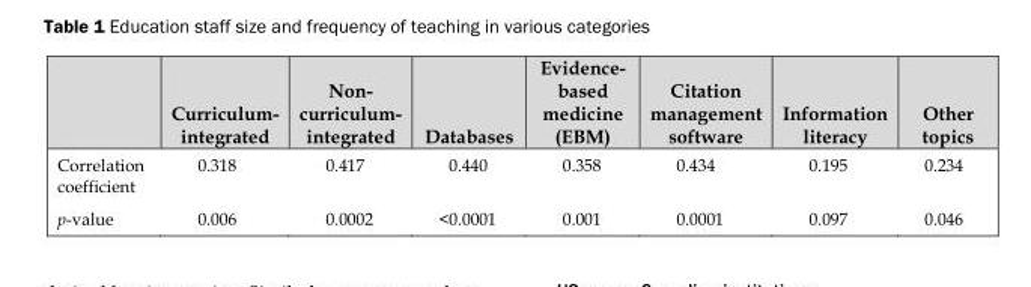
<table><thead><tr><td></td><td>Curriculum- integrated</td><td>Non- curriculum- integrated</td><td>Databases</td><td>Evidence- based medicine (EBM)</td><td>Citation management software</td><td>Information literacy</td><td>Other topics</td></tr></thead><tbody><tr><td>Correlation coefficient</td><td>0.318</td><td>0.417</td><td>0.440</td><td>0.358</td><td>0.434</td><td>0.195</td><td>0.234</td></tr><tr><td>p-value</td><td>0.006</td><td>0.0002</td><td>&lt;0.0001</td><td>0.001</td><td>0.0001</td><td>0.097</td><td>0.046</td></tr></tbody></table>